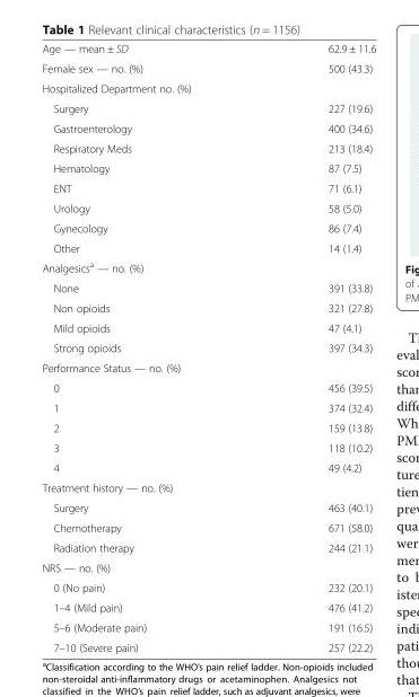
<table><tbody><tr><td>Age — mean ± SD</td><td>62.9 ± 11.6</td></tr><tr><td>Female sex — no. (%)</td><td>500 (43.3)</td></tr><tr><td colspan="2">Hospitalized Department no. (%)</td></tr><tr><td>Surgery</td><td>227 (19.6)</td></tr><tr><td>Gastroenterology</td><td>400 (34.6)</td></tr><tr><td>Respiratory Meds</td><td>213 (18.4)</td></tr><tr><td>Hematology</td><td>87 (7.5)</td></tr><tr><td>ENT</td><td>71 (6.1)</td></tr><tr><td>Urology</td><td>58 (5.0)</td></tr><tr><td>Gynecology</td><td>86 (7.4)</td></tr><tr><td>Other</td><td>14 (1.4)</td></tr><tr><td colspan="2">Analgesics<sup>a</sup> — no. (%)</td></tr><tr><td>None</td><td>391 (33.8)</td></tr><tr><td>Non opioids</td><td>321 (27.8)</td></tr><tr><td>Mild opioids</td><td>47 (4.1)</td></tr><tr><td>Strong opioids</td><td>397 (34.3)</td></tr><tr><td colspan="2">Performance Status — no. (%)</td></tr><tr><td>0</td><td>456 (39.5)</td></tr><tr><td>1</td><td>374 (32.4)</td></tr><tr><td>2</td><td>159 (13.8)</td></tr><tr><td>3</td><td>118 (10.2)</td></tr><tr><td>4</td><td>49 (4.2)</td></tr><tr><td colspan="2">Treatment history — no. (%)</td></tr><tr><td>Surgery</td><td>463 (40.1)</td></tr><tr><td>Chemotherapy</td><td>671 (58.0)</td></tr><tr><td>Radiation therapy</td><td>244 (21.1)</td></tr><tr><td colspan="2">NRS — no. (%)</td></tr><tr><td>0 (No pain)</td><td>232 (20.1)</td></tr><tr><td>1–4 (Mild pain)</td><td>476 (41.2)</td></tr><tr><td>5–6 (Moderate pain)</td><td>191 (16.5)</td></tr><tr><td>7–10 (Severe pain)</td><td>257 (22.2)</td></tr></tbody></table>